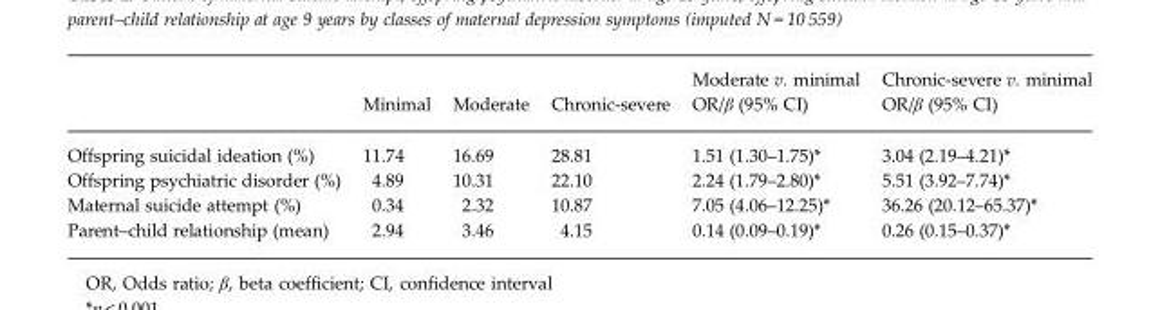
<table><thead><tr><td rowspan="2"></td><td rowspan="2">Minimal</td><td rowspan="2">Moderate</td><td rowspan="2">Chronic-severe</td><td rowspan="2">Moderate v. minimal OR/β (95% CI)</td><td rowspan="2">Chronic-severe v. minimal OR/β (95% CI)</td></tr><tr></tr></thead><tbody><tr><td>Offspring suicidal ideation (%)</td><td>11.74</td><td>16.69</td><td>28.81</td><td>1.51 (1.30–1.75)*</td><td>3.04 (2.19–4.21)*</td></tr><tr><td>Offspring psychiatric disorder (%)</td><td>4.89</td><td>10.31</td><td>22.10</td><td>2.24 (1.79–2.80)*</td><td>5.51 (3.92–7.74)*</td></tr><tr><td>Maternal suicide attempt (%)</td><td>0.34</td><td>2.32</td><td>10.87</td><td>7.05 (4.06–12.25)*</td><td>36.26 (20.12–65.37)*</td></tr><tr><td>Parent–child relationship (mean)</td><td>2.94</td><td>3.46</td><td>4.15</td><td>0.14 (0.09–0.19)*</td><td>0.26 (0.15–0.37)*</td></tr></tbody></table>